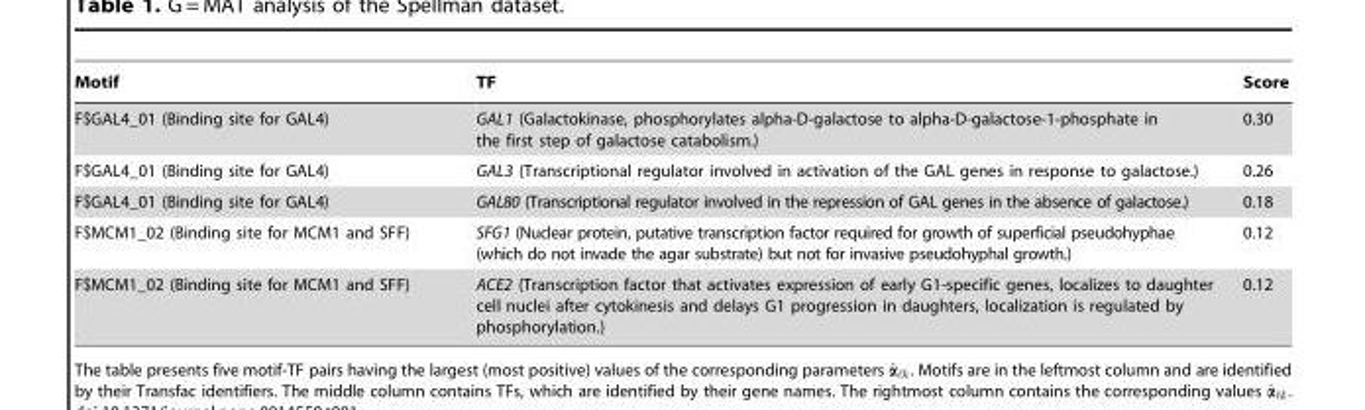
<table><thead><tr><td>Motif</td><td>TF</td><td>Score</td></tr></thead><tbody><tr><td>F$GAL4_01 (Binding site for GAL4)</td><td>GAL1 (Galactokinase, phosphorylates alpha-D-galactose to alpha-D-galactose-1-phosphate in the first step of galactose catabolism.)</td><td>0.30</td></tr><tr><td>F$GAL4_01 (Binding site for GAL4)</td><td>GAL3 (Transcriptional regulator involved in activation of the GAL genes in response to galactose.)</td><td>0.26</td></tr><tr><td>F$GAL4_01 (Binding site for GAL4)</td><td>GAL80 (Transcriptional regulator involved in the repression of GAL genes in the absence of galactose.)</td><td>0.18</td></tr><tr><td>F$MCM1_02 (Binding site for MCM1 and SFF)</td><td>SFG1 (Nuclear protein, putative transcription factor required for growth of superficial pseudohyphae (which do not invade the agar substrate) but not for invasive pseudohyphal growth.)</td><td>0.12</td></tr><tr><td>F$MCM1_02 (Binding site for MCM1 and SFF)</td><td>ACE2 (Transcription factor that activates expression of early G1-specific genes, localizes to daughter cell nuclei after cytokinesis and delays G1 progression in daughters, localization is regulated by phosphorylation.)</td><td>0.12</td></tr></tbody></table>